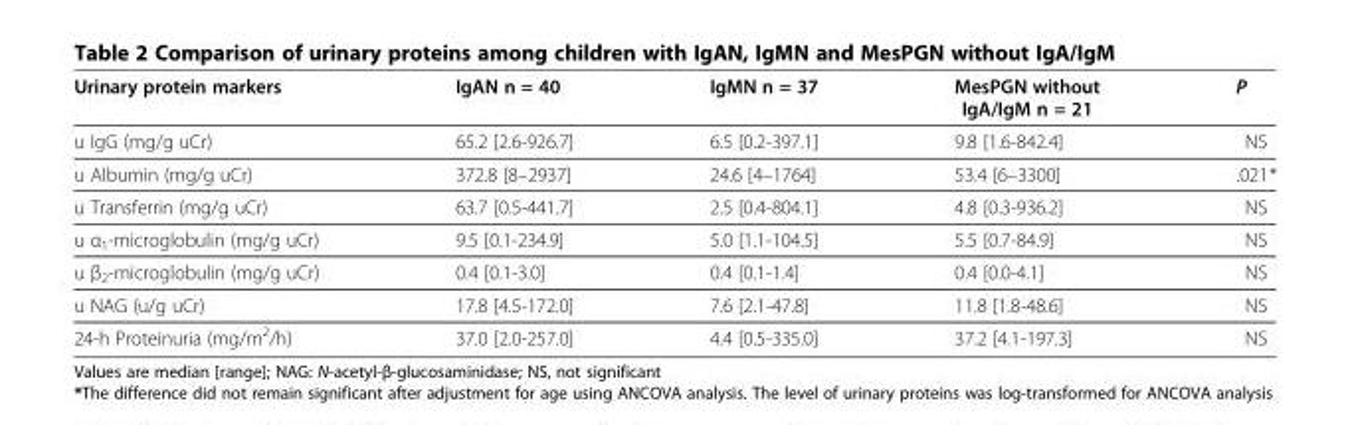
<table><thead><tr><td>Urinary protein markers</td><td>IgAN n = 40</td><td>IgMN n = 37</td><td>MesPGN without IgA/IgM n = 21</td><td>P</td></tr></thead><tbody><tr><td>u IgG (mg/g uCr)</td><td>65.2 [2.6-926.7]</td><td>6.5 [0.2-397.1]</td><td>9.8 [1.6-842.4]</td><td>NS</td></tr><tr><td>u Albumin (mg/g uCr)</td><td>372.8 [8–2937]</td><td>24.6 [4–1764]</td><td>53.4 [6–3300]</td><td>.021*</td></tr><tr><td>u Transferrin (mg/g uCr)</td><td>63.7 [0.5-441.7]</td><td>2.5 [0.4-804.1]</td><td>4.8 [0.3-936.2]</td><td>NS</td></tr><tr><td>u α<sub>1</sub>-microglobulin (mg/g uCr)</td><td>9.5 [0.1-234.9]</td><td>5.0 [1.1-104.5]</td><td>5.5 [0.7-84.9]</td><td>NS</td></tr><tr><td>u β<sub>2</sub>-microglobulin (mg/g uCr)</td><td>0.4 [0.1-3.0]</td><td>0.4 [0.1-1.4]</td><td>0.4 [0.0-4.1]</td><td>NS</td></tr><tr><td>u NAG (u/g uCr)</td><td>17.8 [4.5-172.0]</td><td>7.6 [2.1-47.8]</td><td>11.8 [1.8-48.6]</td><td>NS</td></tr><tr><td>24-h Proteinuria (mg/m<sup>2</sup>/h)</td><td>37.0 [2.0-257.0]</td><td>4.4 [0.5-335.0]</td><td>37.2 [4.1-197.3]</td><td>NS</td></tr></tbody></table>